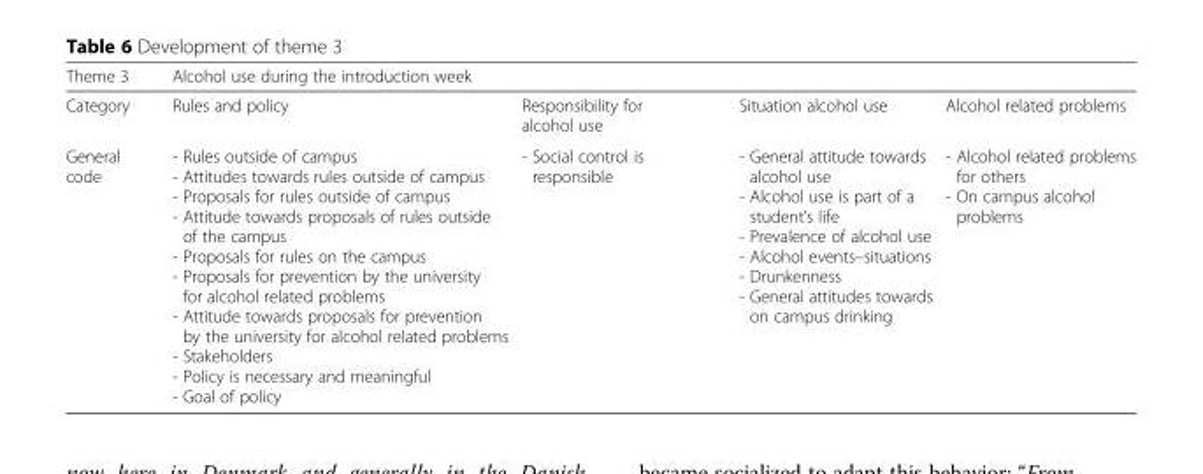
<table><thead><tr><td rowspan="2">Theme 3 Category</td><td colspan="4">Alcohol use during the introduction week</td></tr><tr><td>Rules and policy</td><td>Responsibility for alcohol use</td><td>Situation alcohol use</td><td>Alcohol related problems</td></tr></thead><tbody><tr><td>General code</td><td>- Rules outside of campus - Attitudes towards rules outside of campus - Proposals for rules outside of campus - Attitude towards proposals of rules outside of the campus - Proposals for rules on the campus - Proposals for prevention by the university for alcohol related problems - Attitude towards proposals for prevention by the university for alcohol related problems - Stakeholders - Policy is necessary and meaningful - Goal of policy</td><td>- Social control is responsible</td><td>- General attitude towards alcohol use - Alcohol use is part of a student’s life - Prevalence of alcohol use - Alcohol events–situations - Drunkenness - General attitudes towards on campus drinking</td><td>- Alcohol related problems for others - On campus alcohol problems</td></tr></tbody></table>